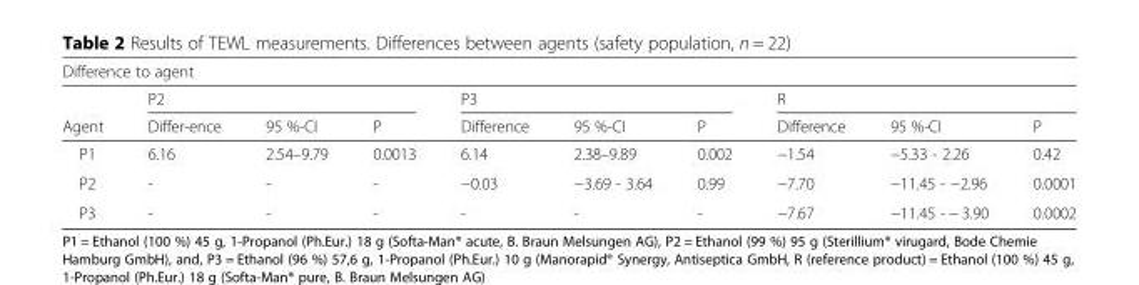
<table><thead><tr><td colspan="10">Difference to agent</td></tr><tr><td rowspan="2">Agent</td><td colspan="3">P2</td><td colspan="3">P3</td><td colspan="3">R</td></tr><tr><td>Differ-ence</td><td>95 %-CI</td><td>P</td><td>Difference</td><td>95 %-CI</td><td>P</td><td>Difference</td><td>95 %-CI</td><td>P</td></tr></thead><tbody><tr><td>P1</td><td>6.16</td><td>2.54–9.79</td><td>0.0013</td><td>6.14</td><td>2.38–9.89</td><td>0.002</td><td>−1.54</td><td>−5.33 - 2.26</td><td>0.42</td></tr><tr><td>P2</td><td>-</td><td>-</td><td>-</td><td>−0.03</td><td>−3.69 - 3.64</td><td>0.99</td><td>−7.70</td><td>−11.45 - −2.96</td><td>0.0001</td></tr><tr><td>P3</td><td>-</td><td>-</td><td>-</td><td>-</td><td>-</td><td>-</td><td>−7.67</td><td>−11.45 - − 3.90</td><td>0.0002</td></tr></tbody></table>